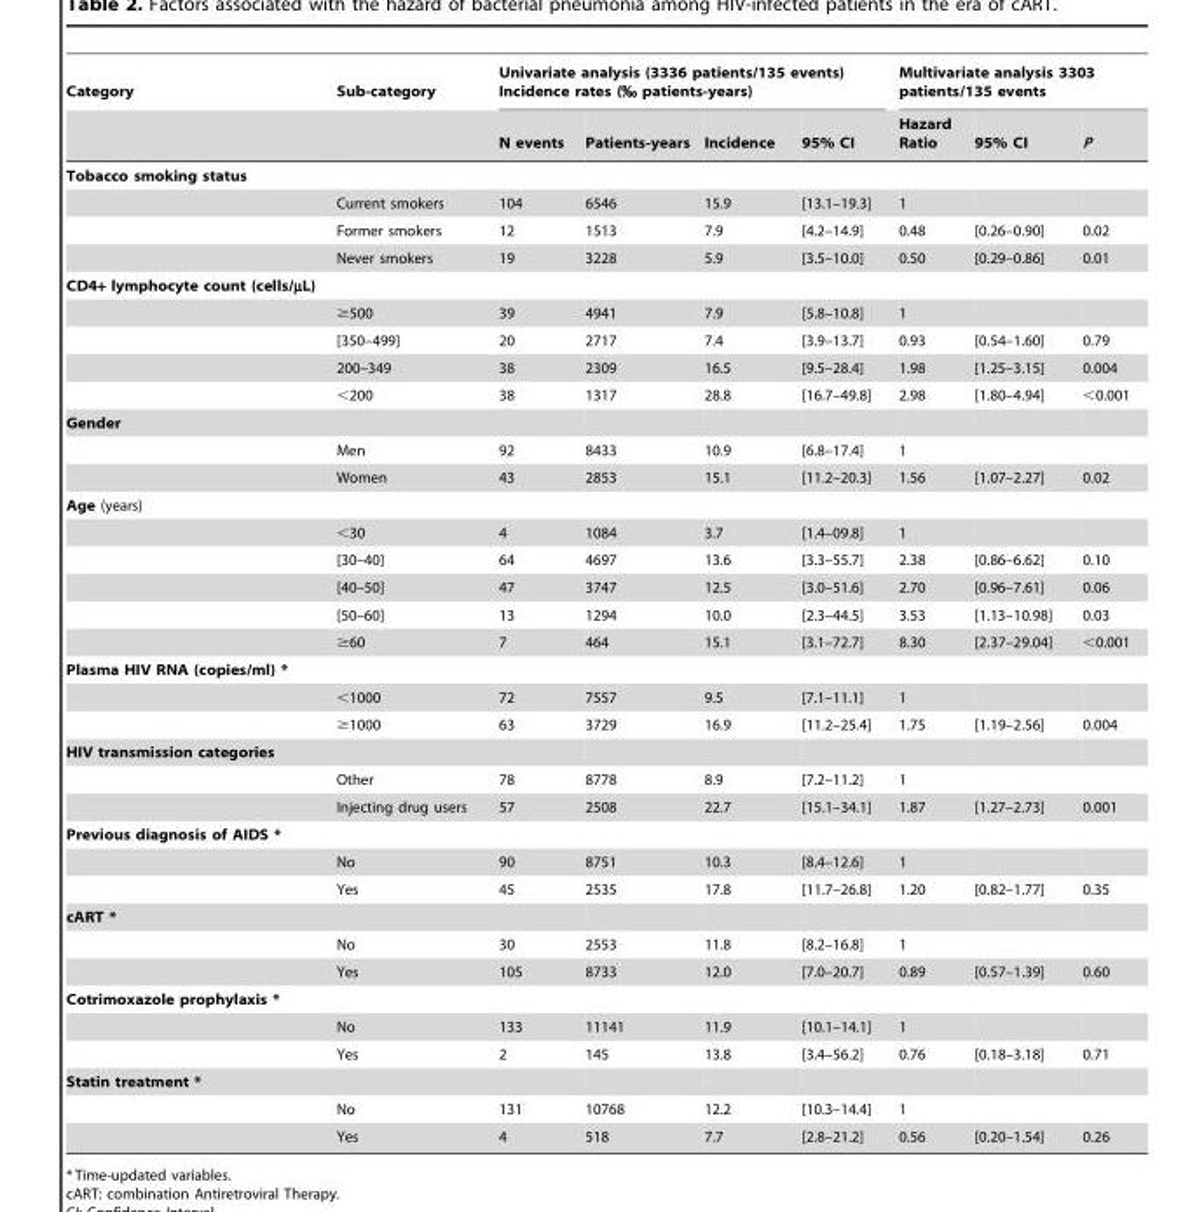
<table><thead><tr><td rowspan="2">Category</td><td rowspan="2">Sub-category</td><td colspan="4">Univariate analysis (3336 patients/135 events) Incidence rates (‰ patients-years)</td><td colspan="3">Multivariate analysis 3303 patients/135 events</td></tr><tr><td>N events</td><td>Patients-years</td><td>Incidence</td><td>95% CI</td><td>Hazard Ratio</td><td>95% CI</td><td>P</td></tr></thead><tbody><tr><td colspan="9">Tobacco smoking status</td></tr><tr><td></td><td>Current smokers</td><td>104</td><td>6546</td><td>15.9</td><td>[13.1–19.3]</td><td>1</td><td></td><td></td></tr><tr><td></td><td>Former smokers</td><td>12</td><td>1513</td><td>7.9</td><td>[4.2–14.9]</td><td>0.48</td><td>[0.26–0.90]</td><td>0.02</td></tr><tr><td></td><td>Never smokers</td><td>19</td><td>3228</td><td>5.9</td><td>[3.5–10.0]</td><td>0.50</td><td>[0.29–0.86]</td><td>0.01</td></tr><tr><td colspan="9">CD4+ lymphocyte count (cells/µL)</td></tr><tr><td></td><td>≥500</td><td>39</td><td>4941</td><td>7.9</td><td>[5.8–10.8]</td><td>1</td><td></td><td></td></tr><tr><td></td><td>[350–499]</td><td>20</td><td>2717</td><td>7.4</td><td>[3.9–13.7]</td><td>0.93</td><td>[0.54–1.60]</td><td>0.79</td></tr><tr><td></td><td>200–349</td><td>38</td><td>2309</td><td>16.5</td><td>[9.5–28.4]</td><td>1.98</td><td>[1.25–3.15]</td><td>0.004</td></tr><tr><td></td><td>&lt;200</td><td>38</td><td>1317</td><td>28.8</td><td>[16.7–49.8]</td><td>2.98</td><td>[1.80–4.94]</td><td>&lt;0.001</td></tr><tr><td colspan="9">Gender</td></tr><tr><td></td><td>Men</td><td>92</td><td>8433</td><td>10.9</td><td>[6.8–17.4]</td><td>1</td><td></td><td></td></tr><tr><td></td><td>Women</td><td>43</td><td>2853</td><td>15.1</td><td>[11.2–20.3]</td><td>1.56</td><td>[1.07–2.27]</td><td>0.02</td></tr><tr><td colspan="9">Age (years)</td></tr><tr><td></td><td>&lt;30</td><td>4</td><td>1084</td><td>3.7</td><td>[1.4–09.8]</td><td>1</td><td></td><td></td></tr><tr><td></td><td>[30–40]</td><td>64</td><td>4697</td><td>13.6</td><td>[3.3–55.7]</td><td>2.38</td><td>[0.86–6.62]</td><td>0.10</td></tr><tr><td></td><td>[40–50]</td><td>47</td><td>3747</td><td>12.5</td><td>[3.0–51.6]</td><td>2.70</td><td>[0.96–7.61]</td><td>0.06</td></tr><tr><td></td><td>[50–60]</td><td>13</td><td>1294</td><td>10.0</td><td>[2.3–44.5]</td><td>3.53</td><td>[1.13–10.98]</td><td>0.03</td></tr><tr><td></td><td>≥60</td><td>7</td><td>464</td><td>15.1</td><td>[3.1–72.7]</td><td>8.30</td><td>[2.37–29.04]</td><td>&lt;0.001</td></tr><tr><td colspan="9">Plasma HIV RNA (copies/ml) *</td></tr><tr><td></td><td>&lt;1000</td><td>72</td><td>7557</td><td>9.5</td><td>[7.1–11.1]</td><td>1</td><td></td><td></td></tr><tr><td></td><td>≥1000</td><td>63</td><td>3729</td><td>16.9</td><td>[11.2–25.4]</td><td>1.75</td><td>[1.19–2.56]</td><td>0.004</td></tr><tr><td colspan="9">HIV transmission categories</td></tr><tr><td></td><td>Other</td><td>78</td><td>8778</td><td>8.9</td><td>[7.2–11.2]</td><td>1</td><td></td><td></td></tr><tr><td></td><td>Injecting drug users</td><td>57</td><td>2508</td><td>22.7</td><td>[15.1–34.1]</td><td>1.87</td><td>[1.27–2.73]</td><td>0.001</td></tr><tr><td colspan="9">Previous diagnosis of AIDS *</td></tr><tr><td></td><td>No</td><td>90</td><td>8751</td><td>10.3</td><td>[8.4–12.6]</td><td>1</td><td></td><td></td></tr><tr><td></td><td>Yes</td><td>45</td><td>2535</td><td>17.8</td><td>[11.7–26.8]</td><td>1.20</td><td>[0.82–1.77]</td><td>0.35</td></tr><tr><td colspan="9">cART *</td></tr><tr><td></td><td>No</td><td>30</td><td>2553</td><td>11.8</td><td>[8.2–16.8]</td><td>1</td><td></td><td></td></tr><tr><td></td><td>Yes</td><td>105</td><td>8733</td><td>12.0</td><td>[7.0–20.7]</td><td>0.89</td><td>[0.57–1.39]</td><td>0.60</td></tr><tr><td colspan="9">Cotrimoxazole prophylaxis *</td></tr><tr><td></td><td>No</td><td>133</td><td>11141</td><td>11.9</td><td>[10.1–14.1]</td><td>1</td><td></td><td></td></tr><tr><td></td><td>Yes</td><td>2</td><td>145</td><td>13.8</td><td>[3.4–56.2]</td><td>0.76</td><td>[0.18–3.18]</td><td>0.71</td></tr><tr><td colspan="9">Statin treatment *</td></tr><tr><td></td><td>No</td><td>131</td><td>10768</td><td>12.2</td><td>[10.3–14.4]</td><td>1</td><td></td><td></td></tr><tr><td></td><td>Yes</td><td>4</td><td>518</td><td>7.7</td><td>[2.8–21.2]</td><td>0.56</td><td>[0.20–1.54]</td><td>0.26</td></tr></tbody></table>